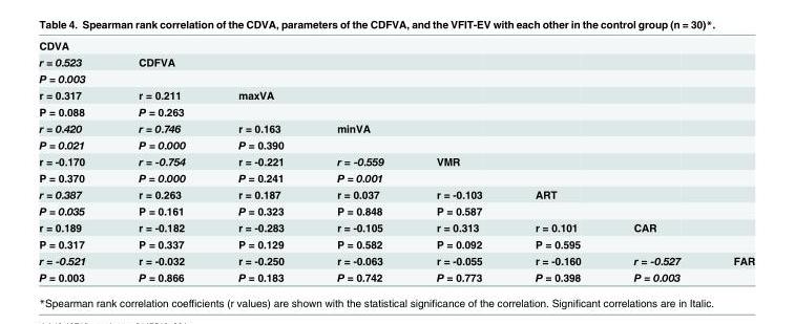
<table><tbody><tr><td colspan="8">CDVA</td></tr><tr><td>r = 0.523</td><td>CDFVA</td><td></td><td></td><td></td><td></td><td></td><td></td></tr><tr><td colspan="8">P = 0.003</td></tr><tr><td>r = 0.317</td><td>r = 0.211</td><td>maxVA</td><td></td><td></td><td></td><td></td><td></td></tr><tr><td>P = 0.088</td><td>P = 0.263</td><td></td><td></td><td></td><td></td><td></td><td></td></tr><tr><td>r = 0.420</td><td>r = 0.746</td><td>r = 0.163</td><td>minVA</td><td></td><td></td><td></td><td></td></tr><tr><td>P = 0.021</td><td>P = 0.000</td><td>P = 0.390</td><td></td><td></td><td></td><td></td><td></td></tr><tr><td>r = -0.170</td><td>r = -0.754</td><td>r = -0.221</td><td>r = -0.559</td><td>VMR</td><td></td><td></td><td></td></tr><tr><td>P = 0.370</td><td>P = 0.000</td><td>P = 0.241</td><td>P = 0.001</td><td></td><td></td><td></td><td></td></tr><tr><td>r = 0.387</td><td>r = 0.263</td><td>r = 0.187</td><td>r = 0.037</td><td>r = -0.103</td><td>ART</td><td></td><td></td></tr><tr><td>P = 0.035</td><td>P = 0.161</td><td>P = 0.323</td><td>P = 0.848</td><td>P = 0.587</td><td></td><td></td><td></td></tr><tr><td>r = 0.189</td><td>r = -0.182</td><td>r = -0.283</td><td>r = -0.105</td><td>r = 0.313</td><td>r = 0.101</td><td>CAR</td><td></td></tr><tr><td>P = 0.317</td><td>P = 0.337</td><td>P = 0.129</td><td>P = 0.582</td><td>P = 0.092</td><td>P = 0.595</td><td></td><td></td></tr><tr><td>r = -0.521</td><td>r = -0.032</td><td>r = -0.250</td><td>r = -0.063</td><td>r = -0.055</td><td>r = -0.160</td><td>r = -0.527</td><td>FAR</td></tr><tr><td>P = 0.003</td><td>P = 0.866</td><td>P = 0.183</td><td>P = 0.742</td><td>P = 0.773</td><td>P = 0.398</td><td>P = 0.003</td><td></td></tr></tbody></table>